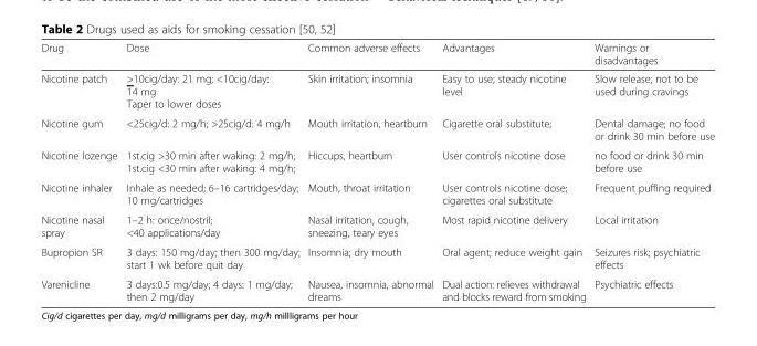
<table><thead><tr><td>Drug</td><td>Dose</td><td>Common adverse effects</td><td>Advantages</td><td>Warnings or disadvantages</td></tr></thead><tbody><tr><td>Nicotine patch</td><td>&gt;10cig/day: 21 mg; &lt;10cig/day: 14 mg Taper to lower doses</td><td>Skin irritation; insomnia</td><td>Easy to use; steady nicotine level</td><td>Slow release; not to be used during cravings</td></tr><tr><td>Nicotine gum</td><td>&lt;25cig/d: 2 mg/h; &gt;25cig/d: 4 mg/h</td><td>Mouth irritation, heartburn</td><td>Cigarette oral substitute;</td><td>Dental damage; no food or drink 30 min before use</td></tr><tr><td>Nicotine lozenge</td><td>1st.cig &gt;30 min after waking: 2 mg/h; 1st.cig &lt;30 min after waking: 4 mg/h;</td><td>Hiccups, heartburn</td><td>User controls nicotine dose</td><td>no food or drink 30 min before use</td></tr><tr><td>Nicotine inhaler</td><td>Inhale as needed; 6–16 cartridges/day; 10 mg/cartridges</td><td>Mouth, throat irritation</td><td>User controls nicotine dose; cigarettes oral substitute</td><td>Frequent puffing required</td></tr><tr><td>Nicotine nasal spray</td><td>1–2 h: once/nostril; &lt;40 applications/day</td><td>Nasal irritation, cough, sneezing, teary eyes</td><td>Most rapid nicotine delivery</td><td>Local irritation</td></tr><tr><td>Bupropion SR</td><td>3 days: 150 mg/day; then 300 mg/day; start 1 wk before quit day</td><td>Insomnia; dry mouth</td><td>Oral agent; reduce weight gain</td><td>Seizures risk; psychiatric effects</td></tr><tr><td>Varenicline</td><td>3 days:0.5 mg/day; 4 days: 1 mg/day; then 2 mg/day</td><td>Nausea, insomnia, abnormal dreams</td><td>Dual action: relieves withdrawal and blocks reward from smoking</td><td>Psychiatric effects</td></tr></tbody></table>